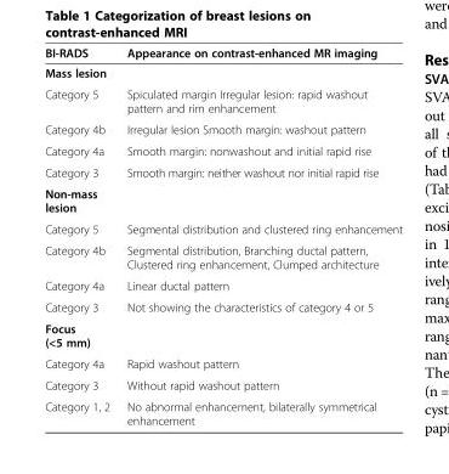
<table><thead><tr><td>BI-RADS</td><td>Appearance on contrast-enhanced MR imaging</td></tr></thead><tbody><tr><td colspan="2">Mass lesion</td></tr><tr><td>Category 5</td><td>Spiculated margin Irregular lesion: rapid washout pattern and rim enhancement</td></tr><tr><td>Category 4b</td><td>Irregular lesion Smooth margin: washout pattern</td></tr><tr><td>Category 4a</td><td>Smooth margin: nonwashout and initial rapid rise</td></tr><tr><td>Category 3</td><td>Smooth margin: neither washout nor initial rapid rise</td></tr><tr><td colspan="2">Non-mass lesion</td></tr><tr><td>Category 5</td><td>Segmental distribution and clustered ring enhancement</td></tr><tr><td>Category 4b</td><td>Segmental distribution, Branching ductal pattern, Clustered ring enhancement, Clumped architecture</td></tr><tr><td>Category 4a</td><td>Linear ductal pattern</td></tr><tr><td>Category 3</td><td>Not showing the characteristics of category 4 or 5</td></tr><tr><td colspan="2">Focus (&lt;5 mm)</td></tr><tr><td>Category 4a</td><td>Rapid washout pattern</td></tr><tr><td>Category 3</td><td>Without rapid washout pattern</td></tr><tr><td>Category 1, 2</td><td>No abnormal enhancement, bilaterally symmetrical enhancement</td></tr></tbody></table>